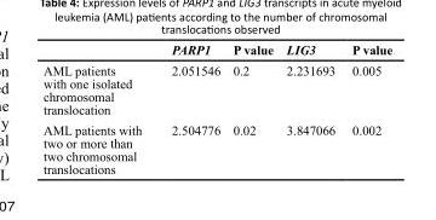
<table><thead><tr><td></td><td>PARP1</td><td>P value</td><td>LIG3</td><td>P value</td></tr></thead><tbody><tr><td>AML patients with one isolated chromosomal translocation</td><td>2.051546</td><td>0.2</td><td>2.231693</td><td>0.005</td></tr><tr><td>AML patients with two or more than two chromosomal translocations</td><td>2.504776</td><td>0.02</td><td>3.847066</td><td>0.002</td></tr></tbody></table>